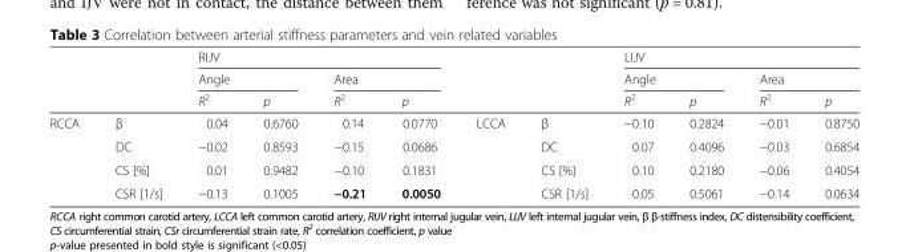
<table><thead><tr><td rowspan="3"></td><td rowspan="3"></td><td colspan="4">RIJV</td><td rowspan="3"></td><td rowspan="3"></td><td colspan="4">LIJV</td></tr><tr><td colspan="2">Angle</td><td colspan="2">Area</td><td colspan="2">Angle</td><td colspan="2">Area</td></tr><tr><td>R<sup>2</sup></td><td>p</td><td>R<sup>2</sup></td><td>p</td><td>R<sup>2</sup></td><td>p</td><td>R<sup>2</sup></td><td>p</td></tr></thead><tbody><tr><td rowspan="4">RCCA</td><td>β</td><td>0.04</td><td>0.6760</td><td>0.14</td><td>0.0770</td><td rowspan="4">LCCA</td><td>β</td><td>−0.10</td><td>0.2824</td><td>−0.01</td><td>0.8750</td></tr><tr><td>DC</td><td>−0.02</td><td>0.8593</td><td>−0.15</td><td>0.0686</td><td>DC</td><td>0.07</td><td>0.4096</td><td>−0.03</td><td>0.6854</td></tr><tr><td>CS [%]</td><td>0.01</td><td>0.9482</td><td>−0.10</td><td>0.1831</td><td>CS [%]</td><td>0.10</td><td>0.2180</td><td>−0.06</td><td>0.4054</td></tr><tr><td>CSR [1/s]</td><td>−0.13</td><td>0.1005</td><td>−0.21</td><td>0.0050</td><td>CSR [1/s]</td><td>0.05</td><td>0.5061</td><td>−0.14</td><td>0.0634</td></tr></tbody></table>